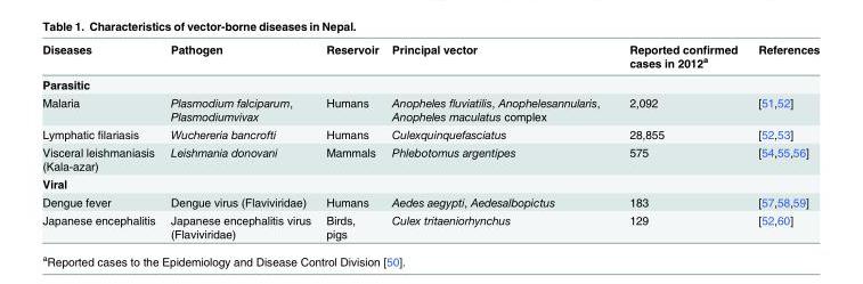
<table><thead><tr><td>Diseases</td><td>Pathogen</td><td>Reservoir</td><td>Principal vector</td><td>Reported confirmed cases in 2012<sup>a</sup></td><td>References</td></tr></thead><tbody><tr><td colspan="6">Parasitic</td></tr><tr><td>Malaria</td><td>Plasmodium falciparum, Plasmodiumvivax</td><td>Humans</td><td>Anopheles fluviatilis, Anophelesannularis, Anopheles maculatus complex</td><td>2,092</td><td>[51,52]</td></tr><tr><td>Lymphatic filariasis</td><td>Wuchereria bancrofti</td><td>Humans</td><td>Culexquinquefasciatus</td><td>28,855</td><td>[52,53]</td></tr><tr><td>Visceral leishmaniasis (Kala-azar)</td><td>Leishmania donovani</td><td>Mammals</td><td>Phlebotomus argentipes</td><td>575</td><td>[54,55,56]</td></tr><tr><td colspan="6">Viral</td></tr><tr><td>Dengue fever</td><td>Dengue virus (Flaviviridae)</td><td>Humans</td><td>Aedes aegypti, Aedesalbopictus</td><td>183</td><td>[57,58,59]</td></tr><tr><td>Japanese encephalitis</td><td>Japanese encephalitis virus (Flaviviridae)</td><td>Birds, pigs</td><td>Culex tritaeniorhynchus</td><td>129</td><td>[52,60]</td></tr></tbody></table>